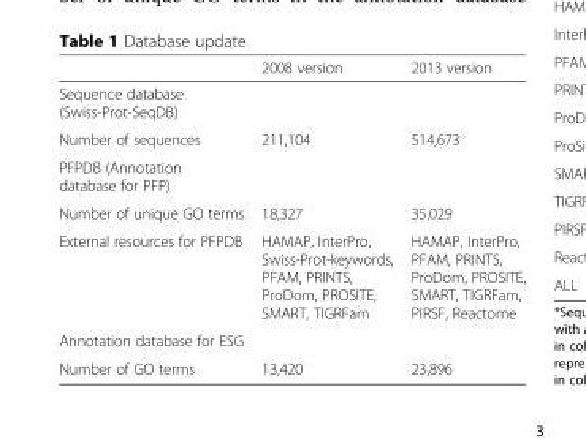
<table><thead><tr><td></td><td>2008 version</td><td>2013 version</td></tr></thead><tbody><tr><td colspan="3">Sequence database (Swiss-Prot-SeqDB)</td></tr><tr><td>Number of sequences</td><td>211,104</td><td>514,673</td></tr><tr><td colspan="3">PFPDB (Annotation database for PFP)</td></tr><tr><td>Number of unique GO terms</td><td>18,327</td><td>35,029</td></tr><tr><td>External resources for PFPDB</td><td>HAMAP, InterPro, Swiss-Prot-keywords, PFAM, PRINTS, ProDom, PROSITE, SMART, TIGRFam</td><td>HAMAP, InterPro, PFAM, PRINTS, ProDom, PROSITE, SMART, TIGRFam, PIRSF, Reactome</td></tr><tr><td colspan="3">Annotation database for ESG</td></tr><tr><td>Number of GO terms</td><td>13,420</td><td>23,896</td></tr></tbody></table>